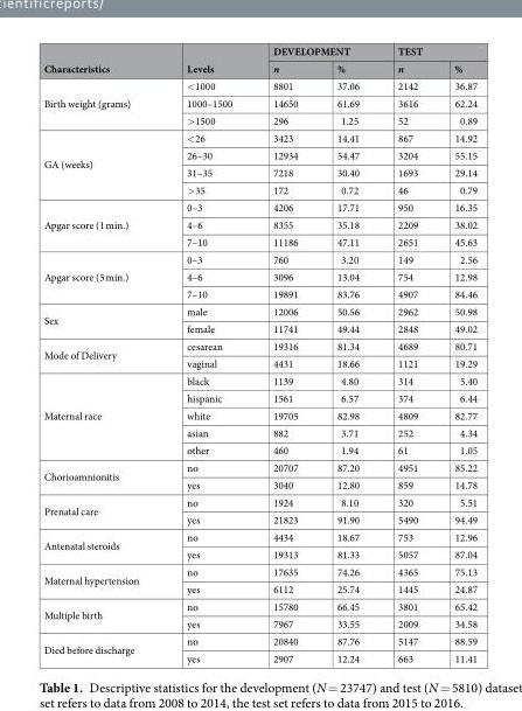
<table><thead><tr><td rowspan="2">Characteristics</td><td rowspan="2">Levels</td><td colspan="2">DEVELOPMENT</td><td colspan="2">TEST</td></tr><tr><td>n</td><td>%</td><td>n</td><td>%</td></tr></thead><tbody><tr><td rowspan="3">Birth weight (grams)</td><td>&lt;1000</td><td>8801</td><td>37.06</td><td>2142</td><td>36.87</td></tr><tr><td>1000–1500</td><td>14650</td><td>61.69</td><td>3616</td><td>62.24</td></tr><tr><td>&gt;1500</td><td>296</td><td>1.25</td><td>52</td><td>0.89</td></tr><tr><td rowspan="4">GA (weeks)</td><td>&lt;26</td><td>3423</td><td>14.41</td><td>867</td><td>14.92</td></tr><tr><td>26–30</td><td>12934</td><td>54.47</td><td>3204</td><td>55.15</td></tr><tr><td>31–35</td><td>7218</td><td>30.40</td><td>1693</td><td>29.14</td></tr><tr><td>&gt;35</td><td>172</td><td>0.72</td><td>46</td><td>0.79</td></tr><tr><td rowspan="3">Apgar score (1 min.)</td><td>0–3</td><td>4206</td><td>17.71</td><td>950</td><td>16.35</td></tr><tr><td>4–6</td><td>8355</td><td>35.18</td><td>2209</td><td>38.02</td></tr><tr><td>7–10</td><td>11186</td><td>47.11</td><td>2651</td><td>45.63</td></tr><tr><td rowspan="3">Apgar score (5 min.)</td><td>0–3</td><td>760</td><td>3.20</td><td>149</td><td>2.56</td></tr><tr><td>4–6</td><td>3096</td><td>13.04</td><td>754</td><td>12.98</td></tr><tr><td>7–10</td><td>19891</td><td>83.76</td><td>4907</td><td>84.46</td></tr><tr><td rowspan="2">Sex</td><td>male</td><td>12006</td><td>50.56</td><td>2962</td><td>50.98</td></tr><tr><td>female</td><td>11741</td><td>49.44</td><td>2848</td><td>49.02</td></tr><tr><td rowspan="2">Mode of Delivery</td><td>cesarean</td><td>19316</td><td>81.34</td><td>4689</td><td>80.71</td></tr><tr><td>vaginal</td><td>4431</td><td>18.66</td><td>1121</td><td>19.29</td></tr><tr><td rowspan="5">Maternal race</td><td>black</td><td>1139</td><td>4.80</td><td>314</td><td>5.40</td></tr><tr><td>hispanic</td><td>1561</td><td>6.57</td><td>374</td><td>6.44</td></tr><tr><td>white</td><td>19705</td><td>82.98</td><td>4809</td><td>82.77</td></tr><tr><td>asian</td><td>882</td><td>3.71</td><td>252</td><td>4.34</td></tr><tr><td>other</td><td>460</td><td>1.94</td><td>61</td><td>1.05</td></tr><tr><td rowspan="2">Chorioamnionitis</td><td>no</td><td>20707</td><td>87.20</td><td>4951</td><td>85.22</td></tr><tr><td>yes</td><td>3040</td><td>12.80</td><td>859</td><td>14.78</td></tr><tr><td rowspan="2">Prenatal care</td><td>no</td><td>1924</td><td>8.10</td><td>320</td><td>5.51</td></tr><tr><td>yes</td><td>21823</td><td>91.90</td><td>5490</td><td>94.49</td></tr><tr><td rowspan="2">Antenatal steroids</td><td>no</td><td>4434</td><td>18.67</td><td>753</td><td>12.96</td></tr><tr><td>yes</td><td>19313</td><td>81.33</td><td>5057</td><td>87.04</td></tr><tr><td rowspan="2">Maternal hypertension</td><td>no</td><td>17635</td><td>74.26</td><td>4365</td><td>75.13</td></tr><tr><td>yes</td><td>6112</td><td>25.74</td><td>1445</td><td>24.87</td></tr><tr><td rowspan="2">Multiple birth</td><td>no</td><td>15780</td><td>66.45</td><td>3801</td><td>65.42</td></tr><tr><td>yes</td><td>7967</td><td>33.55</td><td>2009</td><td>34.58</td></tr><tr><td rowspan="2">Died before discharge</td><td>no</td><td>20840</td><td>87.76</td><td>5147</td><td>88.59</td></tr><tr><td>yes</td><td>2907</td><td>12.24</td><td>663</td><td>11.41</td></tr></tbody></table>